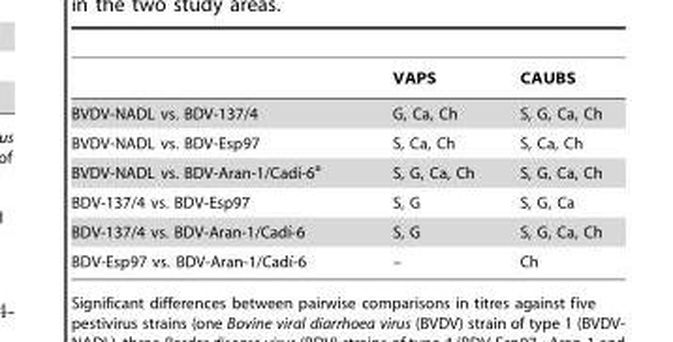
<table><thead><tr><td></td><td>VAPS</td><td>CAUBS</td></tr></thead><tbody><tr><td>BVDV-NADL vs. BDV-137/4</td><td>G, Ca, Ch</td><td>S, G, Ca, Ch</td></tr><tr><td>BVDV-NADL vs. BDV-Esp97</td><td>S, Ca, Ch</td><td>S, Ca, Ch</td></tr><tr><td>BVDV-NADL vs. BDV-Aran-1/Cadı´-6a</td><td>S, G, Ca, Ch</td><td>S, G, Ca, Ch</td></tr><tr><td>BDV-137/4 vs. BDV-Esp97</td><td>S, G</td><td>S, G, Ca</td></tr><tr><td>BDV-137/4 vs. BDV-Aran-1/Cadı´-6</td><td>S, G</td><td>S, G, Ca, Ch</td></tr><tr><td>BDV-Esp97 vs. BDV-Aran-1/Cadı´-6</td><td>–</td><td>Ch</td></tr></tbody></table>